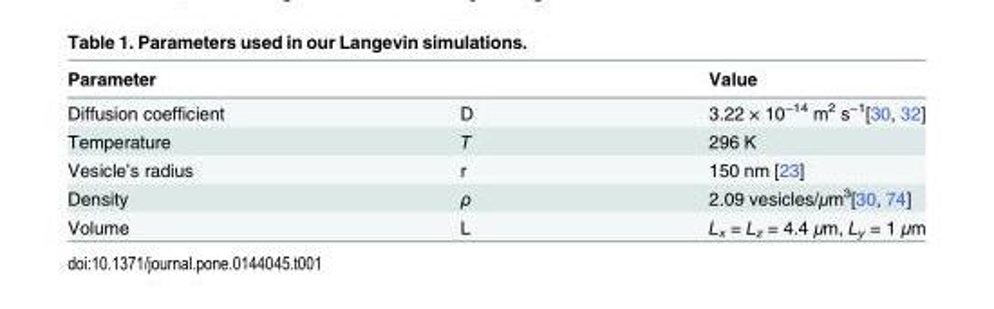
<table><thead><tr><td>Parameter</td><td></td><td>Value</td></tr></thead><tbody><tr><td>Diffusion coefficient</td><td>D</td><td>3.22 × 10<sup>−14</sup> m<sup>2</sup> s<sup>−1</sup>[30, 32]</td></tr><tr><td>Temperature</td><td>T</td><td>296 K</td></tr><tr><td>Vesicle’s radius</td><td>r</td><td>150 nm [23]</td></tr><tr><td>Density</td><td>ρ</td><td>2.09 vesicles/μm<sup>3</sup>[30, 74]</td></tr><tr><td>Volume</td><td>L</td><td>L<sub>x</sub> = L<sub>z</sub> = 4.4 μm, L<sub>y</sub> = 1 μm</td></tr></tbody></table>